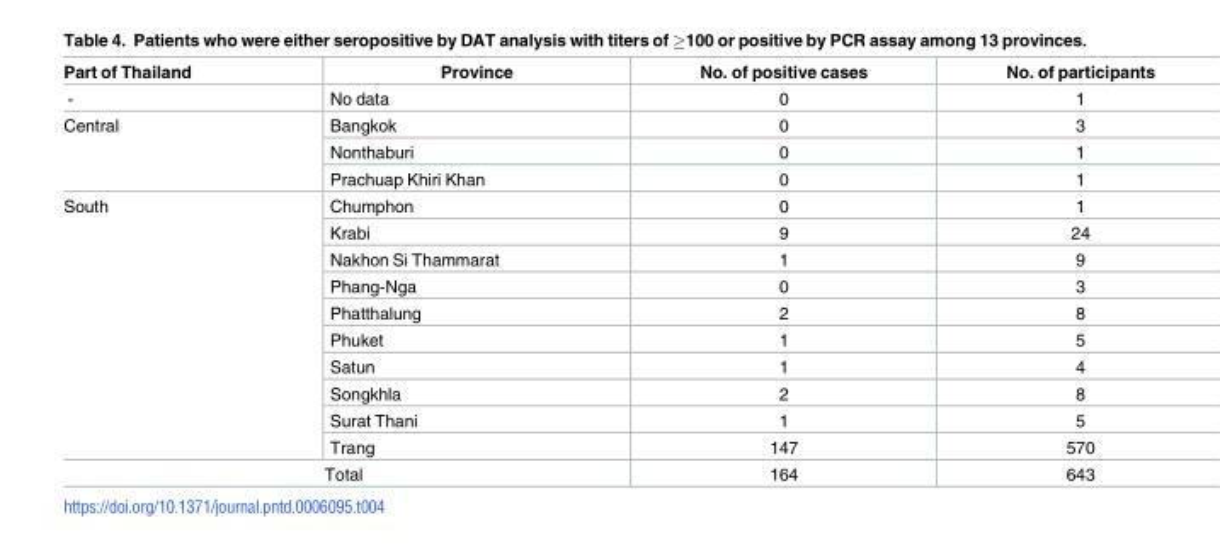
<table><thead><tr><td>Part of Thailand</td><td>Province</td><td>No. of positive cases</td><td>No. of participants</td></tr></thead><tbody><tr><td>-</td><td>No data</td><td>0</td><td>1</td></tr><tr><td rowspan="3">Central</td><td>Bangkok</td><td>0</td><td>3</td></tr><tr><td>Nonthaburi</td><td>0</td><td>1</td></tr><tr><td>Prachuap Khiri Khan</td><td>0</td><td>1</td></tr><tr><td rowspan="10">South</td><td>Chumphon</td><td>0</td><td>1</td></tr><tr><td>Krabi</td><td>9</td><td>24</td></tr><tr><td>Nakhon Si Thammarat</td><td>1</td><td>9</td></tr><tr><td>Phang-Nga</td><td>0</td><td>3</td></tr><tr><td>Phatthalung</td><td>2</td><td>8</td></tr><tr><td>Phuket</td><td>1</td><td>5</td></tr><tr><td>Satun</td><td>1</td><td>4</td></tr><tr><td>Songkhla</td><td>2</td><td>8</td></tr><tr><td>Surat Thani</td><td>1</td><td>5</td></tr><tr><td>Trang</td><td>147</td><td>570</td></tr><tr><td colspan="2">Total</td><td>164</td><td>643</td></tr></tbody></table>